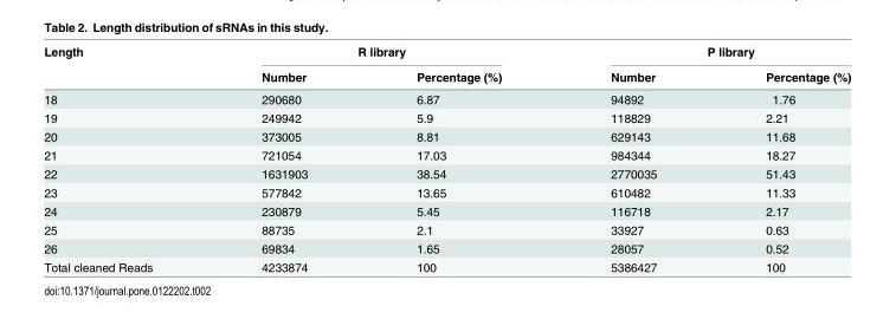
<table><thead><tr><td rowspan="2">Length</td><td colspan="2">R library</td><td colspan="2">P library</td></tr><tr><td>Number</td><td>Percentage (%)</td><td>Number</td><td>Percentage (%)</td></tr></thead><tbody><tr><td>18</td><td>290680</td><td>6.87</td><td>94892</td><td>1.76</td></tr><tr><td>19</td><td>249942</td><td>5.9</td><td>118829</td><td>2.21</td></tr><tr><td>20</td><td>373005</td><td>8.81</td><td>629143</td><td>11.68</td></tr><tr><td>21</td><td>721054</td><td>17.03</td><td>984344</td><td>18.27</td></tr><tr><td>22</td><td>1631903</td><td>38.54</td><td>2770035</td><td>51.43</td></tr><tr><td>23</td><td>577842</td><td>13.65</td><td>610482</td><td>11.33</td></tr><tr><td>24</td><td>230879</td><td>5.45</td><td>116718</td><td>2.17</td></tr><tr><td>25</td><td>88735</td><td>2.1</td><td>33927</td><td>0.63</td></tr><tr><td>26</td><td>69834</td><td>1.65</td><td>28057</td><td>0.52</td></tr><tr><td>Total cleaned Reads</td><td>4233874</td><td>100</td><td>5386427</td><td>100</td></tr></tbody></table>